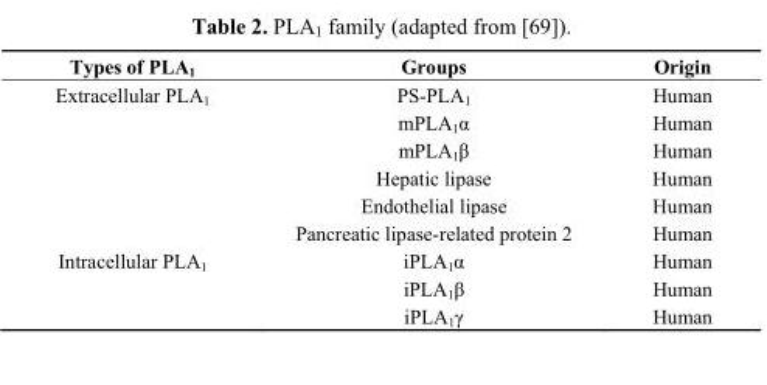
<table><thead><tr><td>Types of PLA<sub>1</sub></td><td>Groups</td><td>Origin</td></tr></thead><tbody><tr><td rowspan="6">Extracellular PLA<sub>1</sub></td><td>PS-PLA<sub>1</sub></td><td>Human</td></tr><tr><td>mPLA<sub>1</sub>α</td><td>Human</td></tr><tr><td>mPLA<sub>1</sub>β</td><td>Human</td></tr><tr><td>Hepatic lipase</td><td>Human</td></tr><tr><td>Endothelial lipase</td><td>Human</td></tr><tr><td>Pancreatic lipase-related protein 2</td><td>Human</td></tr><tr><td rowspan="3">Intracellular PLA<sub>1</sub></td><td>iPLA<sub>1</sub>α</td><td>Human</td></tr><tr><td>iPLA<sub>1</sub>β</td><td>Human</td></tr><tr><td>iPLA<sub>1</sub>γ</td><td>Human</td></tr></tbody></table>